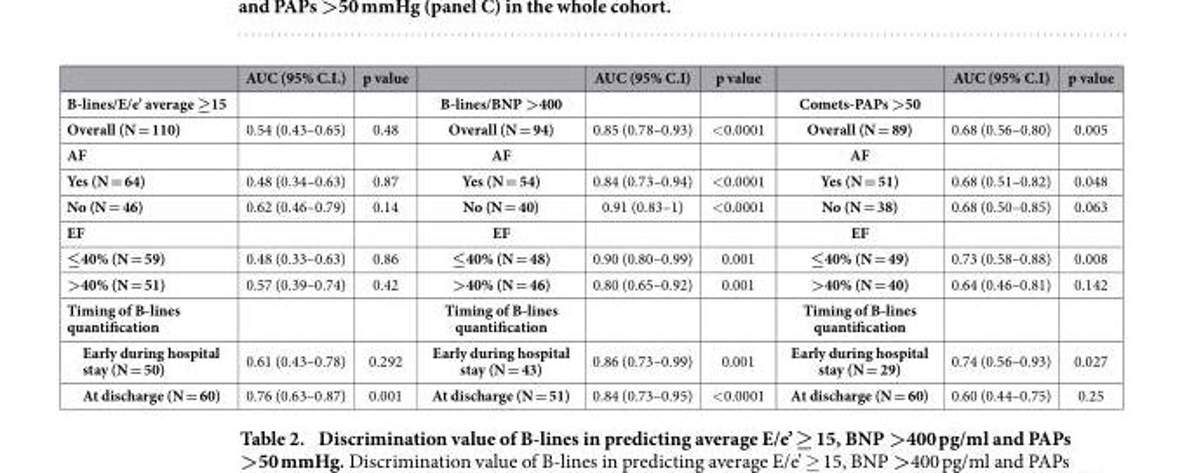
<table><thead><tr><td></td><td>AUC (95% C.I.)</td><td>p value</td><td></td><td>AUC (95% C.I)</td><td>p value</td><td></td><td>AUC (95% C.I)</td><td>p value</td></tr></thead><tbody><tr><td>B-lines/E/e’ average ≥15</td><td></td><td></td><td>B-lines/BNP &gt;400</td><td></td><td></td><td>Comets-PAPs &gt;50</td><td></td><td></td></tr><tr><td>Overall (N = 110)</td><td>0.54 (0.43–0.65)</td><td>0.48</td><td>Overall (N = 94)</td><td>0.85 (0.78–0.93)</td><td>&lt; 0.0001</td><td>Overall (N = 89)</td><td>0.68 (0.56–0.80)</td><td>0.005</td></tr><tr><td>AF</td><td></td><td></td><td>AF</td><td></td><td></td><td>AF</td><td></td><td></td></tr><tr><td>Yes (N = 64)</td><td>0.48 (0.34–0.63)</td><td>0.87</td><td>Yes (N = 54)</td><td>0.84 (0.73–0.94)</td><td>&lt; 0.0001</td><td>Yes (N = 51)</td><td>0.68 (0.51–0.82)</td><td>0.048</td></tr><tr><td>No (N = 46)</td><td>0.62 (0.46–0.79)</td><td>0.14</td><td>No (N = 40)</td><td>0.91 (0.83–1)</td><td>&lt; 0.0001</td><td>No (N = 38)</td><td>0.68 (0.50–0.85)</td><td>0.063</td></tr><tr><td>EF</td><td></td><td></td><td>EF</td><td></td><td></td><td>EF</td><td></td><td></td></tr><tr><td>≤40% (N = 59)</td><td>0.48 (0.33–0.63)</td><td>0.86</td><td>≤40% (N = 48)</td><td>0.90 (0.80–0.99)</td><td>0.001</td><td>≤40% (N = 49)</td><td>0.73 (0.58–0.88)</td><td>0.008</td></tr><tr><td>&gt;40% (N = 51)</td><td>0.57 (0.39–0.74)</td><td>0.42</td><td>&gt;40% (N = 46)</td><td>0.80 (0.65–0.92)</td><td>0.001</td><td>&gt;40% (N = 40)</td><td>0.64 (0.46–0.81)</td><td>0.142</td></tr><tr><td>Timing of B-lines quantification</td><td></td><td></td><td>Timing of B-lines quantification</td><td></td><td></td><td>Timing of B-lines quantification</td><td></td><td></td></tr><tr><td>Early during hospital stay (N = 50)</td><td>0.61 (0.43–0.78)</td><td>0.292</td><td>Early during hospital stay (N = 43)</td><td>0.86 (0.73–0.99)</td><td>0.001</td><td>Early during hospital stay (N = 29)</td><td>0.74 (0.56–0.93)</td><td>0.027</td></tr><tr><td>At discharge (N = 60)</td><td>0.76 (0.63–0.87)</td><td>0.001</td><td>At discharge (N = 51)</td><td>0.84 (0.73–0.95)</td><td>&lt; 0.0001</td><td>At discharge (N = 60)</td><td>0.60 (0.44–0.75)</td><td>0.25</td></tr></tbody></table>